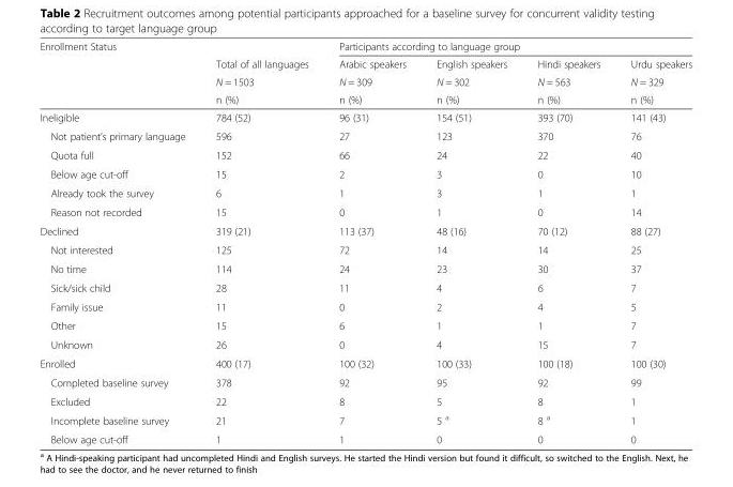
<table><thead><tr><td rowspan="4">Enrollment Status</td><td rowspan="4">Total of all languages N = 1503 n (%)</td><td colspan="4">Participants according to language group</td></tr><tr><td rowspan="3">Arabic speakers N = 309 n (%)</td><td rowspan="3">English speakers N = 302 n (%)</td><td rowspan="3">Hindi speakers N = 563 n (%)</td><td rowspan="3">Urdu speakers N = 329 n (%)</td></tr><tr></tr><tr></tr></thead><tbody><tr><td>Ineligible</td><td>784 (52)</td><td>96 (31)</td><td>154 (51)</td><td>393 (70)</td><td>141 (43)</td></tr><tr><td>Not patient’s primary language</td><td>596</td><td>27</td><td>123</td><td>370</td><td>76</td></tr><tr><td>Quota full</td><td>152</td><td>66</td><td>24</td><td>22</td><td>40</td></tr><tr><td>Below age cut-off</td><td>15</td><td>2</td><td>3</td><td>0</td><td>10</td></tr><tr><td>Already took the survey</td><td>6</td><td>1</td><td>3</td><td>1</td><td>1</td></tr><tr><td>Reason not recorded</td><td>15</td><td>0</td><td>1</td><td>0</td><td>14</td></tr><tr><td>Declined</td><td>319 (21)</td><td>113 (37)</td><td>48 (16)</td><td>70 (12)</td><td>88 (27)</td></tr><tr><td>Not interested</td><td>125</td><td>72</td><td>14</td><td>14</td><td>25</td></tr><tr><td>No time</td><td>114</td><td>24</td><td>23</td><td>30</td><td>37</td></tr><tr><td>Sick/sick child</td><td>28</td><td>11</td><td>4</td><td>6</td><td>7</td></tr><tr><td>Family issue</td><td>11</td><td>0</td><td>2</td><td>4</td><td>5</td></tr><tr><td>Other</td><td>15</td><td>6</td><td>1</td><td>1</td><td>7</td></tr><tr><td>Unknown</td><td>26</td><td>0</td><td>4</td><td>15</td><td>7</td></tr><tr><td>Enrolled</td><td>400 (17)</td><td>100 (32)</td><td>100 (33)</td><td>100 (18)</td><td>100 (30)</td></tr><tr><td>Completed baseline survey</td><td>378</td><td>92</td><td>95</td><td>92</td><td>99</td></tr><tr><td>Excluded</td><td>22</td><td>8</td><td>5</td><td>8</td><td>1</td></tr><tr><td>Incomplete baseline survey</td><td>21</td><td>7</td><td>5 <sup>a</sup></td><td>8 <sup>a</sup></td><td>1</td></tr><tr><td>Below age cut-off</td><td>1</td><td>1</td><td>0</td><td>0</td><td>0</td></tr></tbody></table>